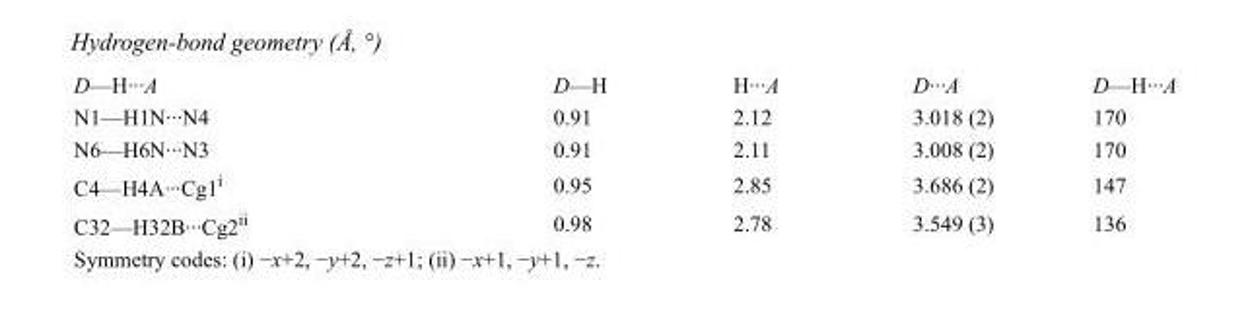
<table><tbody><tr><td>D—H···A</td><td>D—H</td><td>H···A</td><td>D···A</td><td>D—H···A</td></tr><tr><td>N1—H1N···N4</td><td>0.91</td><td>2.12</td><td>3.018 (2)</td><td>170</td></tr><tr><td>N6—H6N···N3</td><td>0.91</td><td>2.11</td><td>3.008 (2)</td><td>170</td></tr><tr><td>C4—H4A···Cg1<sup>i</sup></td><td>0.95</td><td>2.85</td><td>3.686 (2)</td><td>147</td></tr><tr><td>C32—H32B···Cg2<sup>ii</sup></td><td>0.98</td><td>2.78</td><td>3.549 (3)</td><td>136</td></tr></tbody></table>